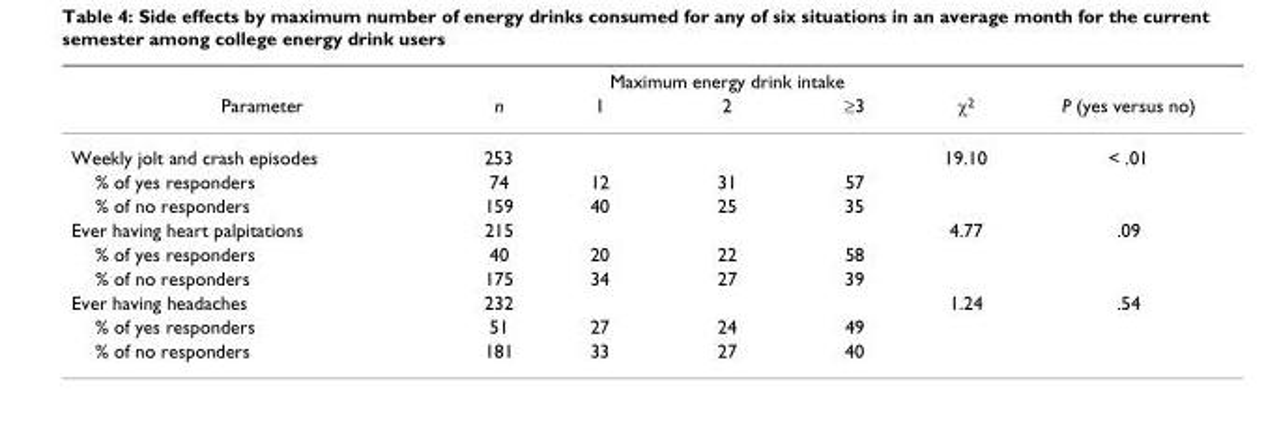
<table><thead><tr><td rowspan="2">Parameter</td><td rowspan="2">n</td><td colspan="3">Maximum energy drink intake</td><td rowspan="2">χ<sup>2</sup></td><td rowspan="2">P (yes versus no)</td></tr><tr><td>1</td><td>2</td><td>≥3</td></tr></thead><tbody><tr><td>Weekly jolt and crash episodes</td><td>253</td><td></td><td></td><td></td><td>19.10</td><td>&lt; .01</td></tr><tr><td>% of yes responders</td><td>74</td><td>12</td><td>31</td><td>57</td><td></td><td></td></tr><tr><td>% of no responders</td><td>159</td><td>40</td><td>25</td><td>35</td><td></td><td></td></tr><tr><td>Ever having heart palpitations</td><td>215</td><td></td><td></td><td></td><td>4.77</td><td>.09</td></tr><tr><td>% of yes responders</td><td>40</td><td>20</td><td>22</td><td>58</td><td></td><td></td></tr><tr><td>% of no responders</td><td>175</td><td>34</td><td>27</td><td>39</td><td></td><td></td></tr><tr><td>Ever having headaches</td><td>232</td><td></td><td></td><td></td><td>1.24</td><td>.54</td></tr><tr><td>% of yes responders</td><td>51</td><td>27</td><td>24</td><td>49</td><td></td><td></td></tr><tr><td>% of no responders</td><td>181</td><td>33</td><td>27</td><td>40</td><td></td><td></td></tr></tbody></table>